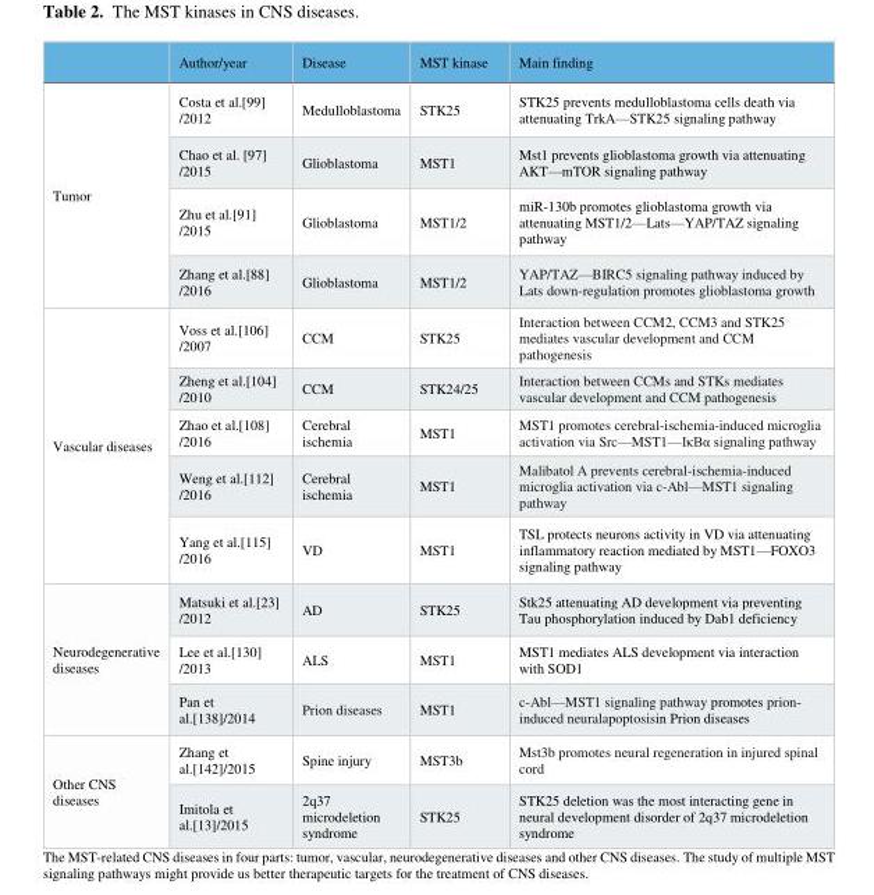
<table><thead><tr><td></td><td>Author/year</td><td>Disease</td><td>MST kinase</td><td>Main finding</td></tr></thead><tbody><tr><td rowspan="4">Tumor</td><td>Costa et al.[99] /2012</td><td>Medulloblastoma</td><td>STK25</td><td>STK25 prevents medulloblastoma cells death via attenuating TrkA—STK25 signaling pathway</td></tr><tr><td>Chao et al. [97] /2015</td><td>Glioblastoma</td><td>MST1</td><td>Mst1 prevents glioblastoma growth via attenuating AKT—mTOR signaling pathway</td></tr><tr><td>Zhu et al.[91] /2015</td><td>Glioblastoma</td><td>MST1/2</td><td>miR-130b promotes glioblastoma growth via attenuating MST1/2—Lats—YAP/TAZ signaling pathway</td></tr><tr><td>Zhang et al.[88] /2016</td><td>Glioblastoma</td><td>MST1/2</td><td>YAP/TAZ—BIRC5 signaling pathway induced by Lats down-regulation promotes glioblastoma growth</td></tr><tr><td rowspan="5">Vascular diseases</td><td>Voss et al.[106] /2007</td><td>CCM</td><td>STK25</td><td>Interaction between CCM2, CCM3 and STK25 mediates vascular development and CCM pathogenesis</td></tr><tr><td>Zheng et al.[104] /2010</td><td>CCM</td><td>STK24/25</td><td>Interaction between CCMs and STKs mediates vascular development and CCM pathogenesis</td></tr><tr><td>Zhao et al.[108] /2016</td><td>Cerebral ischemia</td><td>MST1</td><td>MST1 promotes cerebral-ischemia-induced microglia activation via Src—MST1—IκBα signaling pathway</td></tr><tr><td>Weng et al.[112] /2016</td><td>Cerebral ischemia</td><td>MST1</td><td>Malibatol A prevents cerebral-ischemia-induced microglia activation via c-Abl—MST1 signaling pathway</td></tr><tr><td>Yang et al.[115] /2016</td><td>VD</td><td>MST1</td><td>TSL protects neurons activity in VD via attenuating inflammatory reaction mediated by MST1—FOXO3 signaling pathway</td></tr><tr><td rowspan="3">Neurodegenerative diseases</td><td>Matsuki et al.[23] /2012</td><td>AD</td><td>STK25</td><td>Stk25 attenuating AD development via preventing Tau phosphorylation induced by Dab1 deficiency</td></tr><tr><td>Lee et al.[130] /2013</td><td>ALS</td><td>MST1</td><td>MST1 mediates ALS development via interaction with SOD1</td></tr><tr><td>Pan et al.[138]/2014</td><td>Prion diseases</td><td>MST1</td><td>c-Abl—MST1 signaling pathway promotes prion- induced neuralapoptosisin Prion diseases</td></tr><tr><td rowspan="2">Other CNS diseases</td><td>Zhang et al.[142]/2015</td><td>Spine injury</td><td>MST3b</td><td>Mst3b promotes neural regeneration in injured spinal cord</td></tr><tr><td>Imitola et al.[13]/2015</td><td>2q37 microdeletion syndrome</td><td>STK25</td><td>STK25 deletion was the most interacting gene in neural development disorder of 2q37 microdeletion syndrome</td></tr></tbody></table>